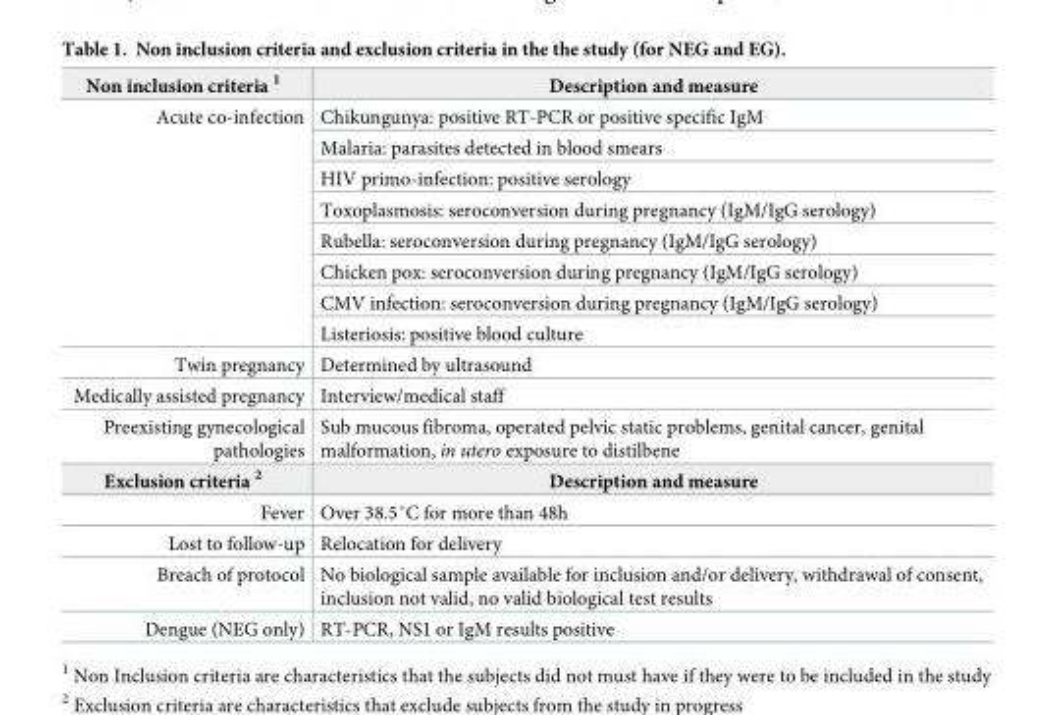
<table><tbody><tr><td>Non inclusion criteria <sup>1</sup></td><td>Description and measure</td></tr><tr><td rowspan="8">Acute co-infection</td><td>Chikungunya: positive RT-PCR or positive specific IgM</td></tr><tr><td>Malaria: parasites detected in blood smears</td></tr><tr><td>HIV primo-infection: positive serology</td></tr><tr><td>Toxoplasmosis: seroconversion during pregnancy (IgM/IgG serology)</td></tr><tr><td>Rubella: seroconversion during pregnancy (IgM/IgG serology)</td></tr><tr><td>Chicken pox: seroconversion during pregnancy (IgM/IgG serology)</td></tr><tr><td>CMV infection: seroconversion during pregnancy (IgM/IgG serology)</td></tr><tr><td>Listeriosis: positive blood culture</td></tr><tr><td>Twin pregnancy</td><td>Determined by ultrasound</td></tr><tr><td>Medically assisted pregnancy</td><td>Interview/medical staff</td></tr><tr><td>Preexisting gynecological pathologies</td><td>Sub mucous fibroma, operated pelvic static problems, genital cancer, genital malformation, in utero exposure to distilbene</td></tr><tr><td>Exclusion criteria <sup>2</sup></td><td>Description and measure</td></tr><tr><td>Fever</td><td>Over 38.5˚C for more than 48h</td></tr><tr><td>Lost to follow-up</td><td>Relocation for delivery</td></tr><tr><td>Breach of protocol</td><td>No biological sample available for inclusion and/or delivery, withdrawal of consent, inclusion not valid, no valid biological test results</td></tr><tr><td>Dengue (NEG only)</td><td>RT-PCR, NS1 or IgM results positive</td></tr></tbody></table>